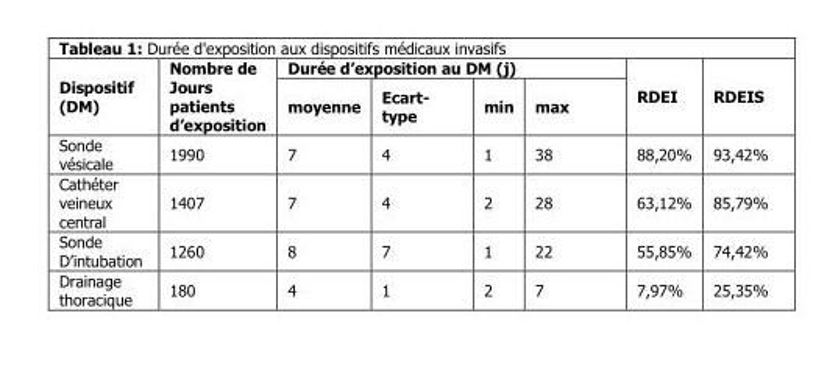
<table><thead><tr><td rowspan="2">Dispositif (DM)</td><td rowspan="2">Nombre de Jours patients d’exposition</td><td colspan="4">Durée d’exposition au DM (j)</td><td rowspan="2">RDEI</td><td rowspan="2">RDEIS</td></tr><tr><td>moyenne</td><td>Ecart- type</td><td>min</td><td>max</td></tr></thead><tbody><tr><td>Sonde vésicale</td><td>1990</td><td>7</td><td>4</td><td>1</td><td>38</td><td>88,20%</td><td>93,42%</td></tr><tr><td>Cathéter veineux central</td><td>1407</td><td>7</td><td>4</td><td>2</td><td>28</td><td>63,12%</td><td>85,79%</td></tr><tr><td>Sonde D’intubation</td><td>1260</td><td>8</td><td>7</td><td>1</td><td>22</td><td>55,85%</td><td>74,42%</td></tr><tr><td>Drainage thoracique</td><td>180</td><td>4</td><td>1</td><td>2</td><td>7</td><td>7,97%</td><td>25,35%</td></tr></tbody></table>